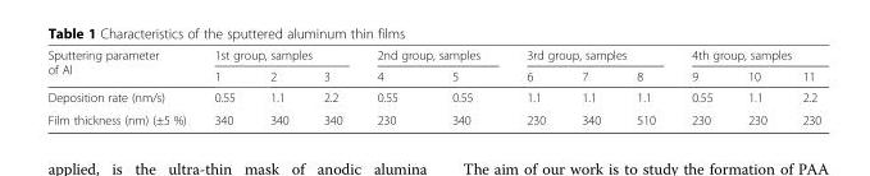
<table><thead><tr><td rowspan="2">Sputtering parameter of Al</td><td colspan="3">1st group, samples</td><td colspan="2">2nd group, samples</td><td colspan="3">3rd group, samples</td><td colspan="3">4th group, samples</td></tr><tr><td>1</td><td>2</td><td>3</td><td>4</td><td>5</td><td>6</td><td>7</td><td>8</td><td>9</td><td>10</td><td>11</td></tr></thead><tbody><tr><td>Deposition rate (nm/s)</td><td>0.55</td><td>1.1</td><td>2.2</td><td>0.55</td><td>0.55</td><td>1.1</td><td>1.1</td><td>1.1</td><td>0.55</td><td>1.1</td><td>2.2</td></tr><tr><td>Film thickness (nm) (±5 %)</td><td>340</td><td>340</td><td>340</td><td>230</td><td>340</td><td>230</td><td>340</td><td>510</td><td>230</td><td>230</td><td>230</td></tr></tbody></table>